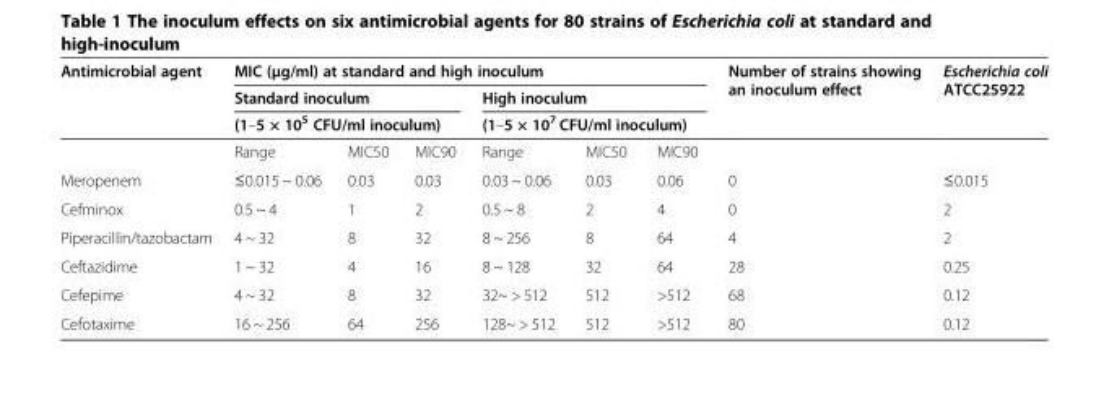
<table><thead><tr><td rowspan="4">Antimicrobial agent</td><td colspan="6">MIC (μg/ml) at standard and high inoculum</td><td rowspan="4">Number of strains showing an inoculum effect</td><td rowspan="4">Escherichia coli ATCC25922</td></tr><tr><td rowspan="2" colspan="3">Standard inoculum (1–5 × 10<sup>5</sup> CFU/ml inoculum)</td><td rowspan="2" colspan="3">High inoculum (1–5 × 10<sup>7</sup> CFU/ml inoculum)</td></tr><tr></tr><tr><td>Range</td><td>MIC50</td><td>MIC90</td><td>Range</td><td>MIC50</td><td>MIC90</td></tr></thead><tbody><tr><td>Meropenem</td><td>≤0.015 ~ 0.06</td><td>0.03</td><td>0.03</td><td>0.03 ~ 0.06</td><td>0.03</td><td>0.06</td><td>0</td><td>≤0.015</td></tr><tr><td>Cefminox</td><td>0.5 ~ 4</td><td>1</td><td>2</td><td>0.5 ~ 8</td><td>2</td><td>4</td><td>0</td><td>2</td></tr><tr><td>Piperacillin/tazobactam</td><td>4 ~ 32</td><td>8</td><td>32</td><td>8 ~ 256</td><td>8</td><td>64</td><td>4</td><td>2</td></tr><tr><td>Ceftazidime</td><td>1 ~ 32</td><td>4</td><td>16</td><td>8 ~ 128</td><td>32</td><td>64</td><td>28</td><td>0.25</td></tr><tr><td>Cefepime</td><td>4 ~ 32</td><td>8</td><td>32</td><td>32~ &gt; 512</td><td>512</td><td>&gt;512</td><td>68</td><td>0.12</td></tr><tr><td>Cefotaxime</td><td>16 ~ 256</td><td>64</td><td>256</td><td>128~ &gt; 512</td><td>512</td><td>&gt;512</td><td>80</td><td>0.12</td></tr></tbody></table>